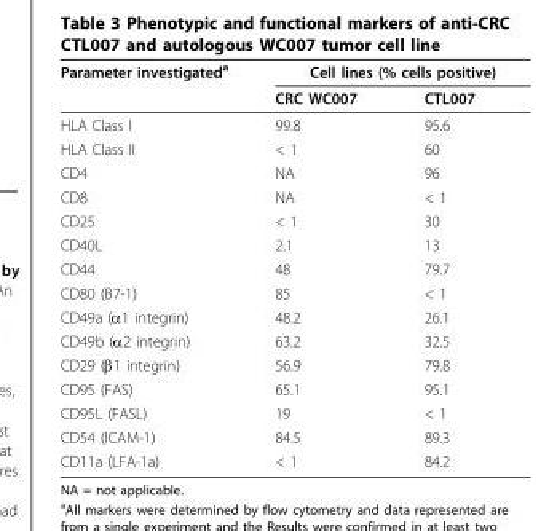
<table><thead><tr><td rowspan="2">Parameter investigated<sup>a</sup></td><td colspan="2">Cell lines (% cells positive)</td></tr><tr><td>CRC WC007</td><td>CTL007</td></tr></thead><tbody><tr><td>HLA Class I</td><td>99.8</td><td>95.6</td></tr><tr><td>HLA Class II</td><td>&lt; 1</td><td>60</td></tr><tr><td>CD4</td><td>NA</td><td>96</td></tr><tr><td>CD8</td><td>NA</td><td>&lt; 1</td></tr><tr><td>CD25</td><td>&lt; 1</td><td>30</td></tr><tr><td>CD40L</td><td>2.1</td><td>13</td></tr><tr><td>CD44</td><td>48</td><td>79.7</td></tr><tr><td>CD80 (B7-1)</td><td>85</td><td>&lt; 1</td></tr><tr><td>CD49a (α1 integrin)</td><td>48.2</td><td>26.1</td></tr><tr><td>CD49b (α2 integrin)</td><td>63.2</td><td>32.5</td></tr><tr><td>CD29 (β1 integrin)</td><td>56.9</td><td>79.8</td></tr><tr><td>CD95 (FAS)</td><td>65.1</td><td>95.1</td></tr><tr><td>CD95L (FASL)</td><td>19</td><td>&lt; 1</td></tr><tr><td>CD54 (ICAM-1)</td><td>84.5</td><td>89.3</td></tr><tr><td>CD11a (LFA-1a)</td><td>&lt; 1</td><td>84.2</td></tr></tbody></table>